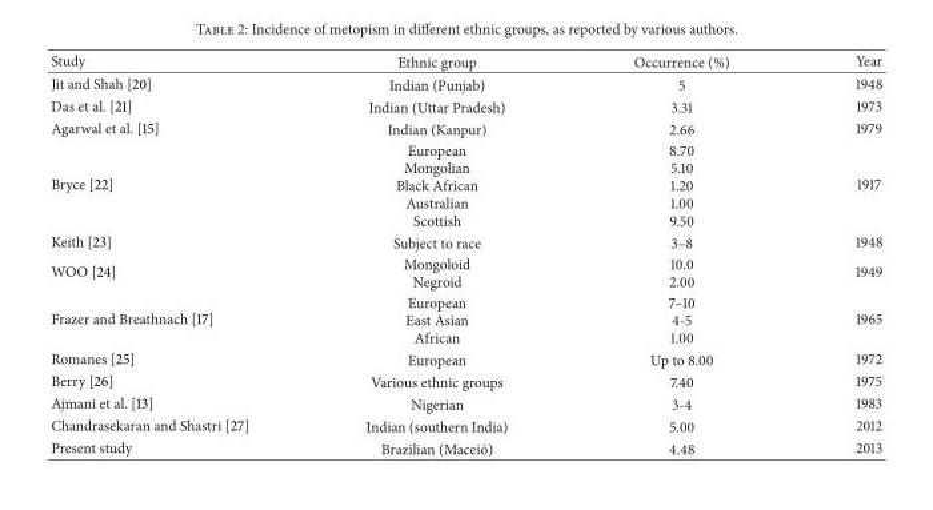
<table><thead><tr><td>Study</td><td>Ethnic group</td><td>Occurrence (%)</td><td>Year</td></tr></thead><tbody><tr><td>Jit and Shah [20]</td><td>Indian (Punjab)</td><td>5</td><td>1948</td></tr><tr><td>Das et al. [21]</td><td>Indian (Uttar Pradesh)</td><td>3.31</td><td>1973</td></tr><tr><td>Agarwal et al. [15]</td><td>Indian (Kanpur)</td><td>2.66</td><td>1979</td></tr><tr><td>Bryce [22]</td><td>European Mongolian Black African Australian Scottish</td><td>8.70 5.10 1.20 1.00 9.50</td><td>1917</td></tr><tr><td>Keith [23]</td><td>Subject to race</td><td>3–8</td><td>1948</td></tr><tr><td>WOO [24]</td><td>Mongoloid Negroid</td><td>10.0 2.00</td><td>1949</td></tr><tr><td>Frazer and Breathnach [17]</td><td>European East Asian African</td><td>7–10 4-5 1.00</td><td>1965</td></tr><tr><td>Romanes [25]</td><td>European</td><td>Up to 8.00</td><td>1972</td></tr><tr><td>Berry [26]</td><td>Various ethnic groups</td><td>7.40</td><td>1975</td></tr><tr><td>Ajmani et al. [13]</td><td>Nigerian</td><td>3-4</td><td>1983</td></tr><tr><td>Chandrasekaran and Shastri [27]</td><td>Indian (southern India)</td><td>5.00</td><td>2012</td></tr><tr><td>Present study</td><td>Brazilian (Macei´o)</td><td>4.48</td><td>2013</td></tr></tbody></table>